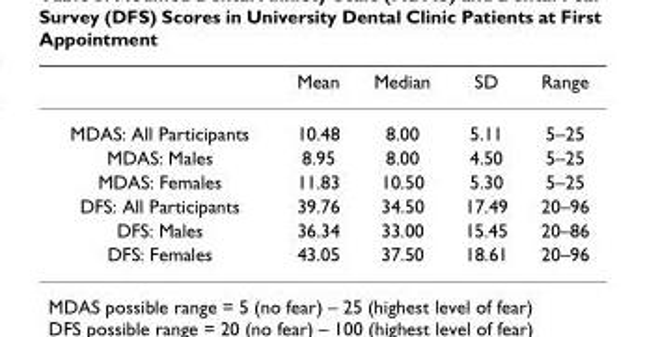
<table><thead><tr><td></td><td>Mean</td><td>Median</td><td>SD</td><td>Range</td></tr></thead><tbody><tr><td>MDAS: All Participants</td><td>10.48</td><td>8.00</td><td>5.11</td><td>5–25</td></tr><tr><td>MDAS: Males</td><td>8.95</td><td>8.00</td><td>4.50</td><td>5–25</td></tr><tr><td>MDAS: Females</td><td>11.83</td><td>10.50</td><td>5.30</td><td>5–25</td></tr><tr><td>DFS: All Participants</td><td>39.76</td><td>34.50</td><td>17.49</td><td>20–96</td></tr><tr><td>DFS: Males</td><td>36.34</td><td>33.00</td><td>15.45</td><td>20–86</td></tr><tr><td>DFS: Females</td><td>43.05</td><td>37.50</td><td>18.61</td><td>20–96</td></tr></tbody></table>